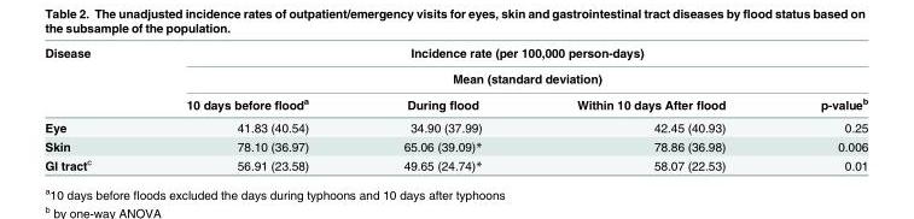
<table><thead><tr><td rowspan="3">Disease</td><td rowspan="2" colspan="4">Incidence rate (per 100,000 person-days) Mean (standard deviation)</td></tr><tr></tr><tr><td>10 days before flood<sup>a</sup></td><td>During flood</td><td>Within 10 days After flood</td><td>p-value<sup>b</sup></td></tr></thead><tbody><tr><td>Eye</td><td>41.83 (40.54)</td><td>34.90 (37.99)</td><td>42.45 (40.93)</td><td>0.25</td></tr><tr><td>Skin</td><td>78.10 (36.97)</td><td>65.06 (39.09)*</td><td>78.86 (36.98)</td><td>0.006</td></tr><tr><td>GI tract<sup>c</sup></td><td>56.91 (23.58)</td><td>49.65 (24.74)*</td><td>58.07 (22.53)</td><td>0.01</td></tr></tbody></table>